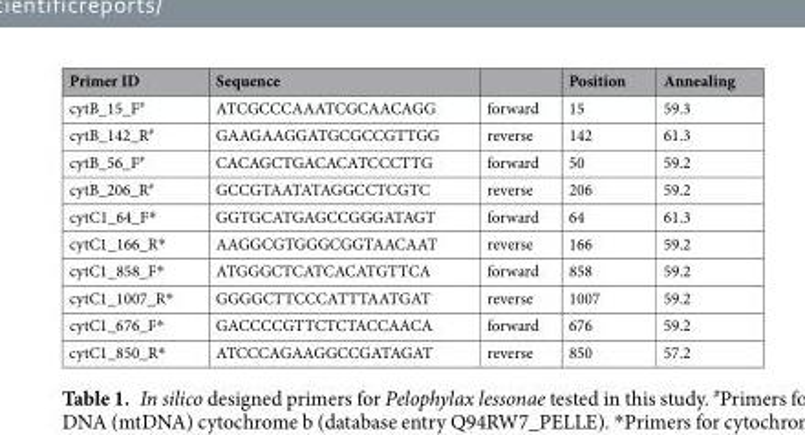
<table><thead><tr><td>Primer ID</td><td>Sequence</td><td></td><td>Position</td><td>Annealing</td></tr></thead><tbody><tr><td>cytB_15_F<sup>#</sup></td><td>ATCGCCCAAATCGCAACAGG</td><td>forward</td><td>15</td><td>59.3</td></tr><tr><td>cytB_142_R<sup>#</sup></td><td>GAAGAAGGATGCGCCGTTGG</td><td>reverse</td><td>142</td><td>61.3</td></tr><tr><td>cytB_56_F<sup>#</sup></td><td>CACAGCTGACACATCCCTTG</td><td>forward</td><td>50</td><td>59.2</td></tr><tr><td>cytB_206_R<sup>#</sup></td><td>GCCGTAATATAGGCCTCGTC</td><td>reverse</td><td>206</td><td>59.2</td></tr><tr><td>cytC1_64_F*</td><td>GGTGCATGAGCCGGGATAGT</td><td>forward</td><td>64</td><td>61.3</td></tr><tr><td>cytC1_166_R*</td><td>AAGGCGTGGGCGGTAACAAT</td><td>reverse</td><td>166</td><td>59.2</td></tr><tr><td>cytC1_858_F*</td><td>ATGGGCTCATCACATGTTCA</td><td>forward</td><td>858</td><td>59.2</td></tr><tr><td>cytC1_1007_R*</td><td>GGGGCTTCCCATTTAATGAT</td><td>reverse</td><td>1007</td><td>59.2</td></tr><tr><td>cytC1_676_F*</td><td>GACCCCGTTCTCTACCAACA</td><td>forward</td><td>676</td><td>59.2</td></tr><tr><td>cytC1_850_R*</td><td>ATCCCAGAAGGCCGATAGAT</td><td>reverse</td><td>850</td><td>57.2</td></tr></tbody></table>